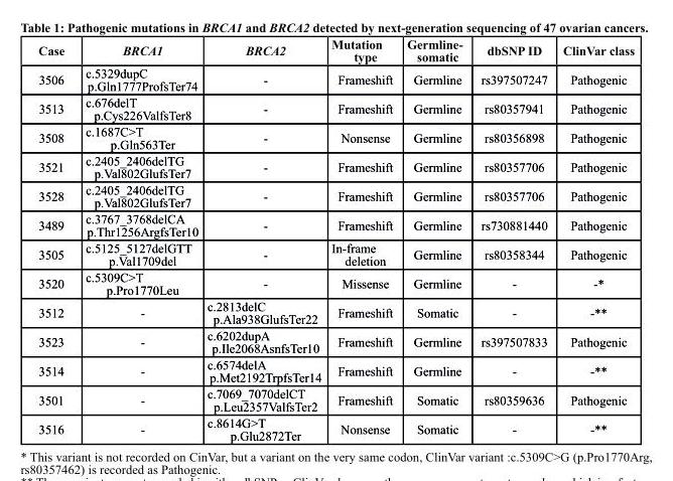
<table><thead><tr><td>case</td><td>BRCA1</td><td>BRCA2</td><td>Mutation type</td><td>Germline- somatic</td><td>dbsNP ID</td><td>clinVar class</td></tr></thead><tbody><tr><td>3506</td><td>c.5329dupC p.Gln1777ProfsTer74</td><td>-</td><td>Frameshift</td><td>Germline</td><td>rs397507247</td><td>Pathogenic</td></tr><tr><td>3513</td><td>c.676delT p.Cys226ValfsTer8</td><td>-</td><td>Frameshift</td><td>Germline</td><td>rs80357941</td><td>Pathogenic</td></tr><tr><td>3508</td><td>c.1687C&gt;T p.Gln563Ter</td><td>-</td><td>Nonsense</td><td>Germline</td><td>rs80356898</td><td>Pathogenic</td></tr><tr><td>3521</td><td>c.2405_2406delTG p.Val802GlufsTer7</td><td>-</td><td>Frameshift</td><td>Germline</td><td>rs80357706</td><td>Pathogenic</td></tr><tr><td>3528</td><td>c.2405_2406delTG p.Val802GlufsTer7</td><td>-</td><td>Frameshift</td><td>Germline</td><td>rs80357706</td><td>Pathogenic</td></tr><tr><td>3489</td><td>c.3767_3768delCA p.Thr1256ArgfsTer10</td><td>-</td><td>Frameshift</td><td>Germline</td><td>rs730881440</td><td>Pathogenic</td></tr><tr><td>3505</td><td>c.5125_5127delGTT p.Val1709del</td><td>-</td><td>In-frame deletion</td><td>Germline</td><td>rs80358344</td><td>Pathogenic</td></tr><tr><td>3520</td><td>c.5309C&gt;T p.Pro1770Leu</td><td>-</td><td>Missense</td><td>Germline</td><td>-</td><td>-*</td></tr><tr><td>3512</td><td>-</td><td>c.2813delC p.Ala938GlufsTer22</td><td>Frameshift</td><td>Somatic</td><td>-</td><td>-**</td></tr><tr><td>3523</td><td>-</td><td>c.6202dupA p.Ile2068AsnfsTer10</td><td>Frameshift</td><td>Germline</td><td>rs397507833</td><td>Pathogenic</td></tr><tr><td>3514</td><td>-</td><td>c.6574delA p.Met2192TrpfsTer14</td><td>Frameshift</td><td>Germline</td><td>-</td><td>-**</td></tr><tr><td>3501</td><td>-</td><td>c.7069_7070delCT p.Leu2357ValfsTer2</td><td>Frameshift</td><td>Somatic</td><td>rs80359636</td><td>Pathogenic</td></tr><tr><td>3516</td><td>-</td><td>c.8614G&gt;T p.Glu2872Ter</td><td>Nonsense</td><td>Somatic</td><td>-</td><td>-**</td></tr></tbody></table>